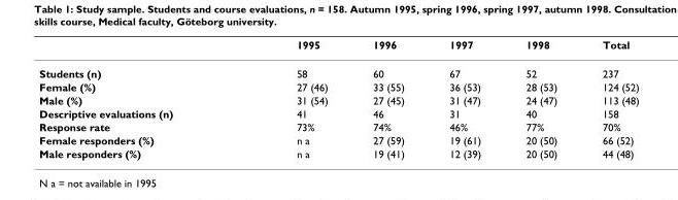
<table><thead><tr><td></td><td>1995</td><td>1996</td><td>1997</td><td>1998</td><td>Total</td></tr></thead><tbody><tr><td>Students (n)</td><td>58</td><td>60</td><td>67</td><td>52</td><td>237</td></tr><tr><td>Female (%)</td><td>27 (46)</td><td>33 (55)</td><td>36 (53)</td><td>28 (53)</td><td>124 (52)</td></tr><tr><td>Male (%)</td><td>31 (54)</td><td>27 (45)</td><td>31 (47)</td><td>24 (47)</td><td>113 (48)</td></tr><tr><td>Descriptive evaluations (n)</td><td>41</td><td>46</td><td>31</td><td>40</td><td>158</td></tr><tr><td>Response rate</td><td>73%</td><td>74%</td><td>46%</td><td>77%</td><td>70%</td></tr><tr><td>Female responders (%)</td><td>n a</td><td>27 (59)</td><td>19 (61)</td><td>20 (50)</td><td>66 (52)</td></tr><tr><td>Male responders (%)</td><td>n a</td><td>19 (41)</td><td>12 (39)</td><td>20 (50)</td><td>44 (48)</td></tr></tbody></table>